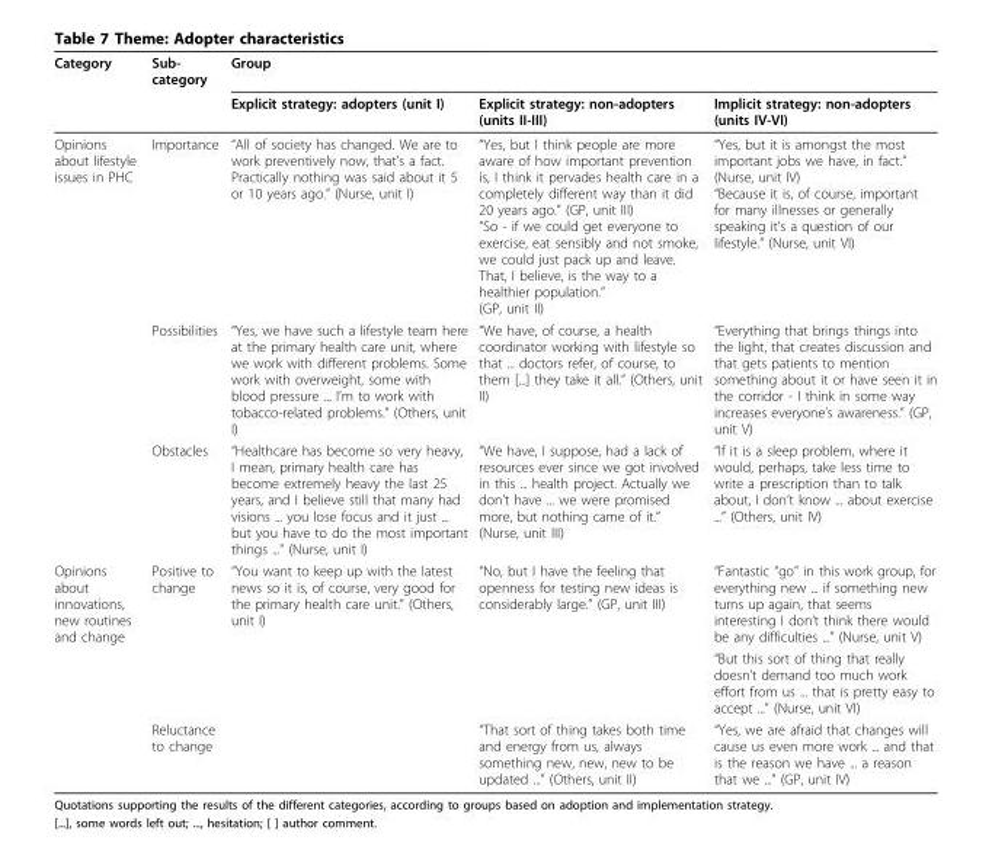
<table><thead><tr><td rowspan="2">Category</td><td rowspan="2">Sub- category</td><td colspan="3">Group</td></tr><tr><td>Explicit strategy: adopters (unit I)</td><td>Explicit strategy: non-adopters (units II-III)</td><td>Implicit strategy: non-adopters (units IV-VI)</td></tr></thead><tbody><tr><td rowspan="3">Opinions about lifestyle issues in PHC</td><td>Importance</td><td>“All of society has changed. We are to work preventively now, that’s a fact. Practically nothing was said about it 5 or 10 years ago.” (Nurse, unit I)</td><td>“Yes, but I think people are more aware of how important prevention ís, I think it pervades health care in a completely different way than it did 20 years ago.” (GP, unit III) “So - if we could get everyone to exercise, eat sensibly and not smoke, we could just pack up and leave. That, I believe, is the way to a healthier population.” (GP, unit II)</td><td>“Yes, but it is amongst the most important jobs we have, in fact.” (Nurse, unit IV) “Because it is, of course, important for many illnesses or generally speaking it’s a question of our lifestyle.” (Nurse, unit VI)</td></tr><tr><td>Possibilities</td><td>“Yes, we have such a lifestyle team here at the primary health care unit, where we work with different problems. Some work with overweight, some with blood pressure ... I’m to work with tobacco-related problems.” (Others, unit I)</td><td>“We have, of course, a health coordinator working with lifestyle so that ... doctors refer, of course, to them [...] they take it all.” (Others, unit II)</td><td>“Everything that brings things into the light, that creates discussion and that gets patients to mention something about it or have seen it in the corridor - I think in some way increases everyone’s awareness.” (GP, unit V)</td></tr><tr><td>Obstacles</td><td>“Healthcare has become so very heavy, I mean, primary health care has become extremely heavy the last 25 years, and I believe still that many had visions ... you lose focus and it just ... but you have to do the most important things ...” (Nurse, unit I)</td><td>“We have, I suppose, had a lack of resources ever since we got involved in this ... health project. Actually we don’t have ... we were promised more, but nothing came of it.” (Nurse, unit III)</td><td>“If it is a sleep problem, where it would, perhaps, take less time to write a prescription than to talk about, I don’t know ... about exercise ...” (Others, unit IV)</td></tr><tr><td rowspan="3">Opinions about innovations, new routines and change</td><td>Positive to change</td><td>“You want to keep up with the latest news so it is, of course, very good for the primary health care unit.” (Others, unit I)</td><td>“No, but I have the feeling that openness for testing new ideas is considerably large.” (GP, unit III)</td><td>“Fantastic “go” in this work group, for everything new ... if something new turns up again, that seems interesting I don’t think there would be any difficulties ...” (Nurse, unit V)</td></tr><tr><td></td><td></td><td></td><td>“But this sort of thing that really doesn’t demand too much work effort from us ... that is pretty easy to accept ...” (Nurse, unit VI)</td></tr><tr><td>Reluctance to change</td><td></td><td>“That sort of thing takes both time and energy from us, always something new, new, new to be updated ...” (Others, unit II)</td><td>“Yes, we are afraid that changes will cause us even more work ... and that is the reason we have ... a reason that we ...” (GP, unit IV)</td></tr></tbody></table>